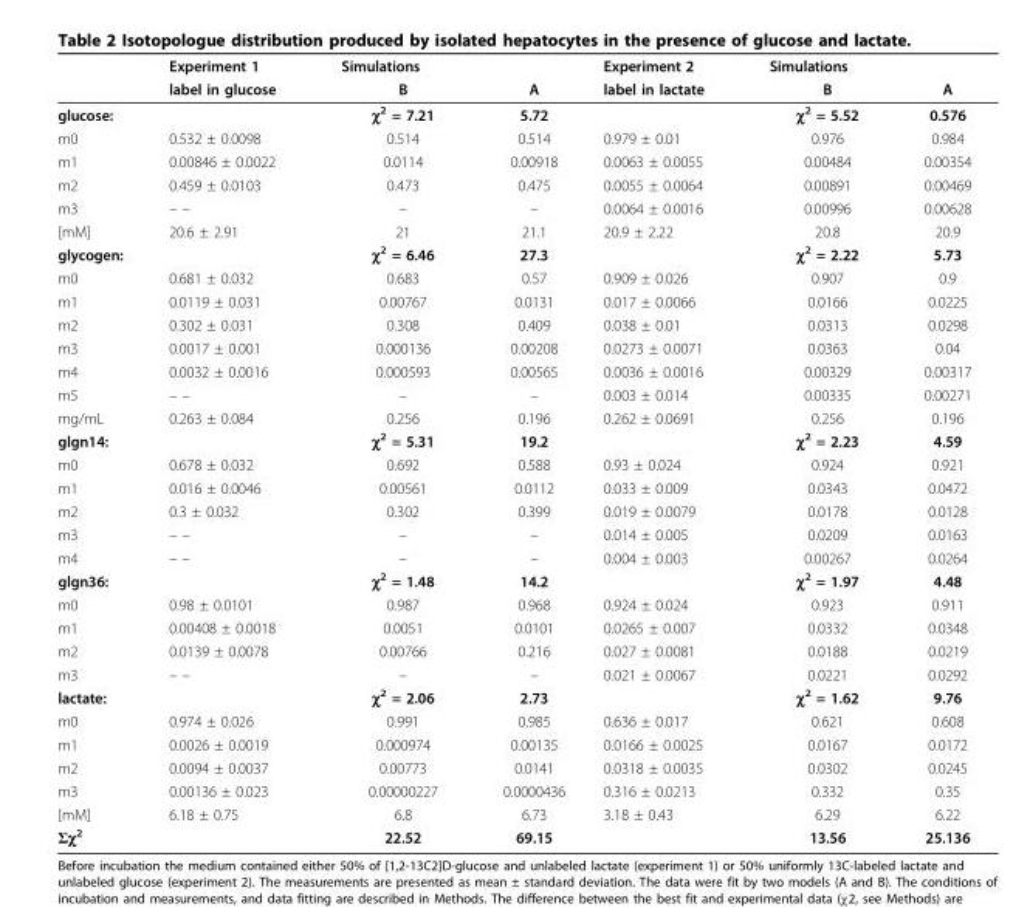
<table><thead><tr><td rowspan="2"></td><td rowspan="2">Experiment 1 label in glucose</td><td colspan="2">Simulations</td><td rowspan="2">Experiment 2 label in lactate</td><td colspan="2">Simulations</td></tr><tr><td>B</td><td>A</td><td>B</td><td>A</td></tr></thead><tbody><tr><td colspan="2">glucose:</td><td>χ<sup>2</sup> = 7.21</td><td>5.72</td><td></td><td>χ<sup>2</sup> = 5.52</td><td>0.576</td></tr><tr><td>m0</td><td>0.532 ± 0.0098</td><td>0.514</td><td>0.514</td><td>0.979 ± 0.01</td><td>0.976</td><td>0.984</td></tr><tr><td>m1</td><td>0.00846 ± 0.0022</td><td>0.0114</td><td>0.00918</td><td>0.0063 ± 0.0055</td><td>0.00484</td><td>0.00354</td></tr><tr><td>m2</td><td>0.459 ± 0.0103</td><td>0.473</td><td>0.475</td><td>0.0055 ± 0.0064</td><td>0.00891</td><td>0.00469</td></tr><tr><td>m3</td><td>– –</td><td>–</td><td>–</td><td>0.0064 ± 0.0016</td><td>0.00996</td><td>0.00628</td></tr><tr><td>[mM]</td><td>20.6 ± 2.91</td><td>21</td><td>21.1</td><td>20.9 ± 2.22</td><td>20.8</td><td>20.9</td></tr><tr><td colspan="2">glycogen:</td><td>χ<sup>2</sup> = 6.46</td><td>27.3</td><td></td><td>χ<sup>2</sup> = 2.22</td><td>5.73</td></tr><tr><td>m0</td><td>0.681 ± 0.032</td><td>0.683</td><td>0.57</td><td>0.909 ± 0.026</td><td>0.907</td><td>0.9</td></tr><tr><td>m1</td><td>0.0119 ± 0.031</td><td>0.00767</td><td>0.0131</td><td>0.017 ± 0.0066</td><td>0.0166</td><td>0.0225</td></tr><tr><td>m2</td><td>0.302 ± 0.031</td><td>0.308</td><td>0.409</td><td>0.038 ± 0.01</td><td>0.0313</td><td>0.0298</td></tr><tr><td>m3</td><td>0.0017 ± 0.001</td><td>0.000136</td><td>0.00208</td><td>0.0273 ± 0.0071</td><td>0.0363</td><td>0.04</td></tr><tr><td>m4</td><td>0.0032 ± 0.0016</td><td>0.000593</td><td>0.00565</td><td>0.0036 ± 0.0016</td><td>0.00329</td><td>0.00317</td></tr><tr><td>m5</td><td>– –</td><td>–</td><td>–</td><td>0.003 ± 0.014</td><td>0.00335</td><td>0.00271</td></tr><tr><td>mg/mL</td><td>0.263 ± 0.084</td><td>0.256</td><td>0.196</td><td>0.262 ± 0.0691</td><td>0.256</td><td>0.196</td></tr><tr><td colspan="2">glgn14:</td><td>χ<sup>2</sup> = 5.31</td><td>19.2</td><td></td><td>χ<sup>2</sup> = 2.23</td><td>4.59</td></tr><tr><td>m0</td><td>0.678 ± 0.032</td><td>0.692</td><td>0.588</td><td>0.93 ± 0.024</td><td>0.924</td><td>0.921</td></tr><tr><td>m1</td><td>0.016 ± 0.0046</td><td>0.00561</td><td>0.0112</td><td>0.033 ± 0.009</td><td>0.0343</td><td>0.0472</td></tr><tr><td>m2</td><td>0.3 ± 0.032</td><td>0.302</td><td>0.399</td><td>0.019 ± 0.0079</td><td>0.0178</td><td>0.0128</td></tr><tr><td>m3</td><td>– –</td><td>–</td><td>–</td><td>0.014 ± 0.005</td><td>0.0209</td><td>0.0163</td></tr><tr><td>m4</td><td>– –</td><td>–</td><td>–</td><td>0.004 ± 0.003</td><td>0.00267</td><td>0.0264</td></tr><tr><td colspan="2">glgn36:</td><td>χ<sup>2</sup> = 1.48</td><td>14.2</td><td></td><td>χ<sup>2</sup> = 1.97</td><td>4.48</td></tr><tr><td>m0</td><td>0.98 ± 0.0101</td><td>0.987</td><td>0.968</td><td>0.924 ± 0.024</td><td>0.923</td><td>0.911</td></tr><tr><td>m1</td><td>0.00408 ± 0.0018</td><td>0.0051</td><td>0.0101</td><td>0.0265 ± 0.007</td><td>0.0332</td><td>0.0348</td></tr><tr><td>m2</td><td>0.0139 ± 0.0078</td><td>0.00766</td><td>0.216</td><td>0.027 ± 0.0081</td><td>0.0188</td><td>0.0219</td></tr><tr><td>m3</td><td>– –</td><td>–</td><td>–</td><td>0.021 ± 0.0067</td><td>0.0221</td><td>0.0292</td></tr><tr><td colspan="2">lactate:</td><td>χ<sup>2</sup> = 2.06</td><td>2.73</td><td></td><td>χ<sup>2</sup> = 1.62</td><td>9.76</td></tr><tr><td>m0</td><td>0.974 ± 0.026</td><td>0.991</td><td>0.985</td><td>0.636 ± 0.017</td><td>0.621</td><td>0.608</td></tr><tr><td>m1</td><td>0.0026 ± 0.0019</td><td>0.000974</td><td>0.00135</td><td>0.0166 ± 0.0025</td><td>0.0167</td><td>0.0172</td></tr><tr><td>m2</td><td>0.0094 ± 0.0037</td><td>0.00773</td><td>0.0141</td><td>0.0318 ± 0.0035</td><td>0.0302</td><td>0.0245</td></tr><tr><td>m3</td><td>0.00136 ± 0.023</td><td>0.00000227</td><td>0.0000436</td><td>0.316 ± 0.0213</td><td>0.332</td><td>0.35</td></tr><tr><td>[mM]</td><td>6.18 ± 0.75</td><td>6.8</td><td>6.73</td><td>3.18 ± 0.43</td><td>6.29</td><td>6.22</td></tr><tr><td colspan="2">Σχ<sup>2</sup></td><td>22.52</td><td>69.15</td><td></td><td>13.56</td><td>25.136</td></tr></tbody></table>